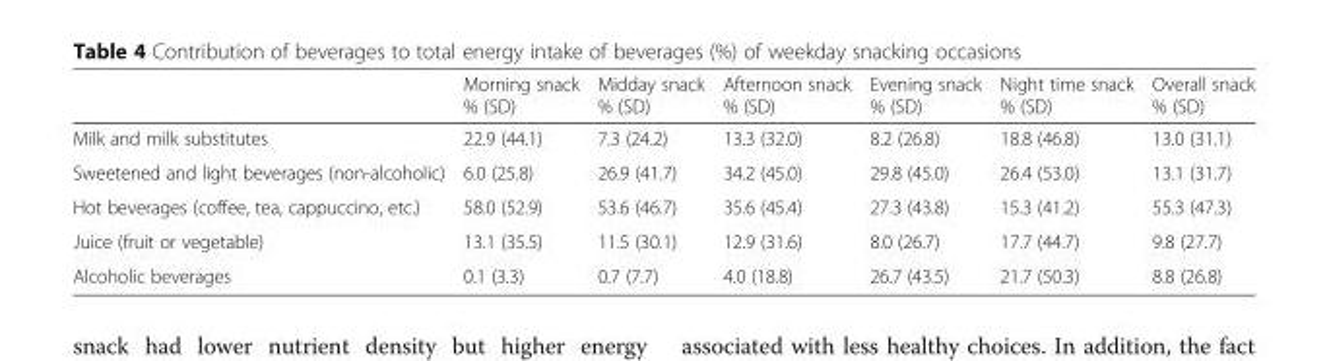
<table><thead><tr><td></td><td>Morning snack % (SD)</td><td>Midday snack % (SD)</td><td>Afternoon snack % (SD)</td><td>Evening snack % (SD)</td><td>Night time snack % (SD)</td><td>Overall snack % (SD)</td></tr></thead><tbody><tr><td>Milk and milk substitutes</td><td>22.9 (44.1)</td><td>7.3 (24.2)</td><td>13.3 (32.0)</td><td>8.2 (26.8)</td><td>18.8 (46.8)</td><td>13.0 (31.1)</td></tr><tr><td>Sweetened and light beverages (non-alcoholic)</td><td>6.0 (25.8)</td><td>26.9 (41.7)</td><td>34.2 (45.0)</td><td>29.8 (45.0)</td><td>26.4 (53.0)</td><td>13.1 (31.7)</td></tr><tr><td>Hot beverages (coffee, tea, cappuccino, etc.)</td><td>58.0 (52.9)</td><td>53.6 (46.7)</td><td>35.6 (45.4)</td><td>27.3 (43.8)</td><td>15.3 (41.2)</td><td>55.3 (47.3)</td></tr><tr><td>Juice (fruit or vegetable)</td><td>13.1 (35.5)</td><td>11.5 (30.1)</td><td>12.9 (31.6)</td><td>8.0 (26.7)</td><td>17.7 (44.7)</td><td>9.8 (27.7)</td></tr><tr><td>Alcoholic beverages</td><td>0.1 (3.3)</td><td>0.7 (7.7)</td><td>4.0 (18.8)</td><td>26.7 (43.5)</td><td>21.7 (50.3)</td><td>8.8 (26.8)</td></tr></tbody></table>